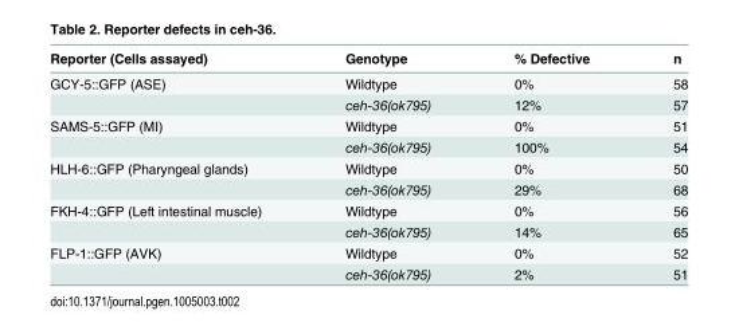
<table><thead><tr><td>Reporter (Cells assayed)</td><td>Genotype</td><td>% Defective</td><td>n</td></tr></thead><tbody><tr><td rowspan="2">GCY-5::GFP (ASE)</td><td>Wildtype</td><td>0%</td><td>58</td></tr><tr><td>ceh-36(ok795)</td><td>12%</td><td>57</td></tr><tr><td rowspan="2">SAMS-5::GFP (MI)</td><td>Wildtype</td><td>0%</td><td>51</td></tr><tr><td>ceh-36(ok795)</td><td>100%</td><td>54</td></tr><tr><td rowspan="2">HLH-6::GFP (Pharyngeal glands)</td><td>Wildtype</td><td>0%</td><td>50</td></tr><tr><td>ceh-36(ok795)</td><td>29%</td><td>68</td></tr><tr><td rowspan="2">FKH-4::GFP (Left intestinal muscle)</td><td>Wildtype</td><td>0%</td><td>56</td></tr><tr><td>ceh-36(ok795)</td><td>14%</td><td>65</td></tr><tr><td rowspan="2">FLP-1::GFP (AVK)</td><td>Wildtype</td><td>0%</td><td>52</td></tr><tr><td>ceh-36(ok795)</td><td>2%</td><td>51</td></tr></tbody></table>